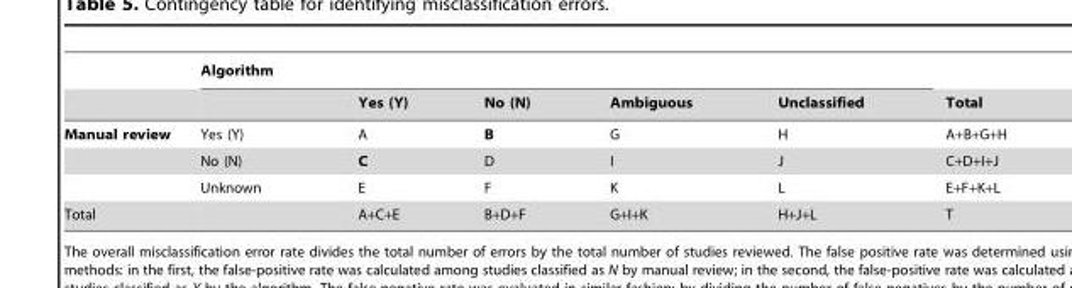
<table><thead><tr><td rowspan="2"></td><td colspan="5">Algorithm</td><td rowspan="2">Total</td></tr><tr><td></td><td>Yes (Y)</td><td>No (N)</td><td>Ambiguous</td><td>Unclassified</td></tr></thead><tbody><tr><td rowspan="3">Manual review</td><td>Yes (Y)</td><td>A</td><td>B</td><td>G</td><td>H</td><td>A+B+G+H</td></tr><tr><td>No (N)</td><td>C</td><td>D</td><td>I</td><td>J</td><td>C+D+I+J</td></tr><tr><td>Unknown</td><td>E</td><td>F</td><td>K</td><td>L</td><td>E+F+K+L</td></tr><tr><td>Total</td><td></td><td>A+C+E</td><td>B+D+F</td><td>G+I+K</td><td>H+J+L</td><td>T</td></tr></tbody></table>